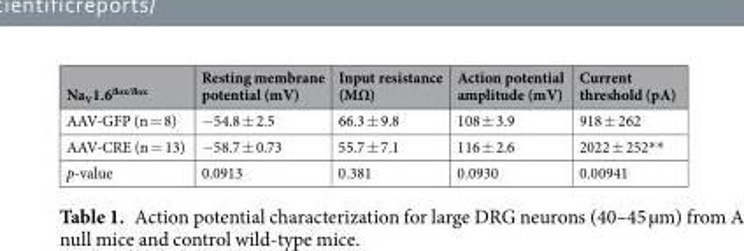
<table><thead><tr><td>Na<sub>V</sub>1.6<sup>flox/flox</sup></td><td>Resting membrane potential (mV)</td><td>Input resistance (MΩ)</td><td>Action potential amplitude (mV)</td><td>Current threshold (pA)</td></tr></thead><tbody><tr><td>AAV-GFP (n = 8)</td><td>−54.8 ± 2.5</td><td>66.3 ± 9.8</td><td>108 ± 3.9</td><td>918 ± 262</td></tr><tr><td>AAV-CRE (n = 13)</td><td>−58.7 ± 0.73</td><td>55.7 ± 7.1</td><td>116 ± 2.6</td><td>2022 ± 252**</td></tr><tr><td>p-value</td><td>0.0913</td><td>0.381</td><td>0.0930</td><td>0.00941</td></tr></tbody></table>